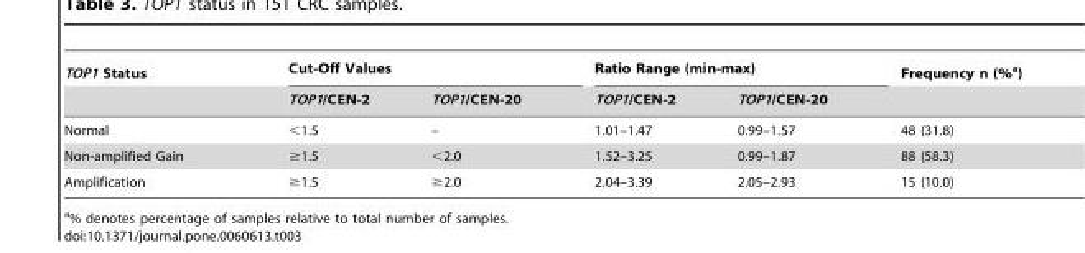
<table><thead><tr><td rowspan="2">TOP1 Status</td><td colspan="2">Cut-Off Values</td><td colspan="2">Ratio Range (min-max)</td><td rowspan="2">Frequency n (%<sup>a</sup>)</td></tr><tr><td>TOP1/CEN-2</td><td>TOP1/CEN-20</td><td>TOP1/CEN-2</td><td>TOP1/CEN-20</td></tr></thead><tbody><tr><td>Normal</td><td>&lt;1.5</td><td>–</td><td>1.01–1.47</td><td>0.99–1.57</td><td>48 (31.8)</td></tr><tr><td>Non-amplified Gain</td><td>≥1.5</td><td>&lt;2.0</td><td>1.52–3.25</td><td>0.99–1.87</td><td>88 (58.3)</td></tr><tr><td>Amplification</td><td>≥1.5</td><td>≥2.0</td><td>2.04–3.39</td><td>2.05–2.93</td><td>15 (10.0)</td></tr></tbody></table>